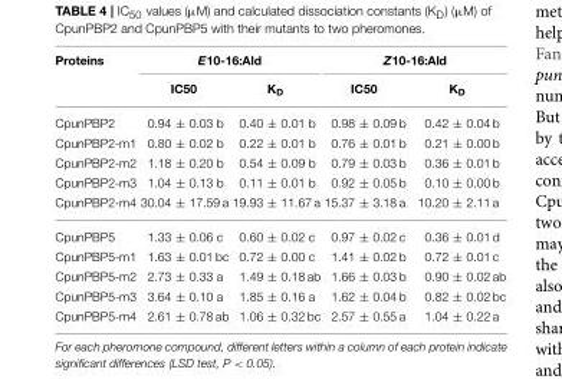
<table><thead><tr><td rowspan="2">Proteins</td><td colspan="2">E10-16:Ald</td><td colspan="2">Z10-16:Ald</td></tr><tr><td>IC50</td><td>K<sub>D</sub></td><td>IC50</td><td>K<sub>D</sub></td></tr></thead><tbody><tr><td>CpunPBP2</td><td>0.94 ± 0.03 b</td><td>0.40 ± 0.01 b</td><td>0.98 ± 0.09 b</td><td>0.42 ± 0.04 b</td></tr><tr><td>CpunPBP2-m1</td><td>0.80 ± 0.02 b</td><td>0.22 ± 0.01 b</td><td>0.76 ± 0.01 b</td><td>0.21 ± 0.00 b</td></tr><tr><td>CpunPBP2-m2</td><td>1.18 ± 0.20 b</td><td>0.54 ± 0.09 b</td><td>0.79 ± 0.03 b</td><td>0.36 ± 0.01 b</td></tr><tr><td>CpunPBP2-m3</td><td>1.04 ± 0.13 b</td><td>0.11 ± 0.01 b</td><td>0.92 ± 0.05 b</td><td>0.10 ± 0.00 b</td></tr><tr><td>CpunPBP2-m4</td><td>30.04 ± 17.59 a</td><td>19.93 ± 11.67 a</td><td>15.37 ± 3.18 a</td><td>10.20 ± 2.11 a</td></tr><tr><td>CpunPBP5</td><td>1.33 ± 0.06 c</td><td>0.60 ± 0.02 c</td><td>0.97 ± 0.02 c</td><td>0.36 ± 0.01 d</td></tr><tr><td>CpunPBP5-m1</td><td>1.63 ± 0.01 bc</td><td>0.72 ± 0.00 c</td><td>1.41 ± 0.02 b</td><td>0.72 ± 0.01 c</td></tr><tr><td>CpunPBP5-m2</td><td>2.73 ± 0.33 a</td><td>1.49 ± 0.18 ab</td><td>1.66 ± 0.03 b</td><td>0.90 ± 0.02 ab</td></tr><tr><td>CpunPBP5-m3</td><td>3.64 ± 0.10 a</td><td>1.85 ± 0.16 a</td><td>1.62 ± 0.04 b</td><td>0.82 ± 0.02 bc</td></tr><tr><td>CpunPBP5-m4</td><td>2.61 ± 0.78 ab</td><td>1.06 ± 0.32 bc</td><td>2.57 ± 0.55 a</td><td>1.04 ± 0.22 a</td></tr></tbody></table>